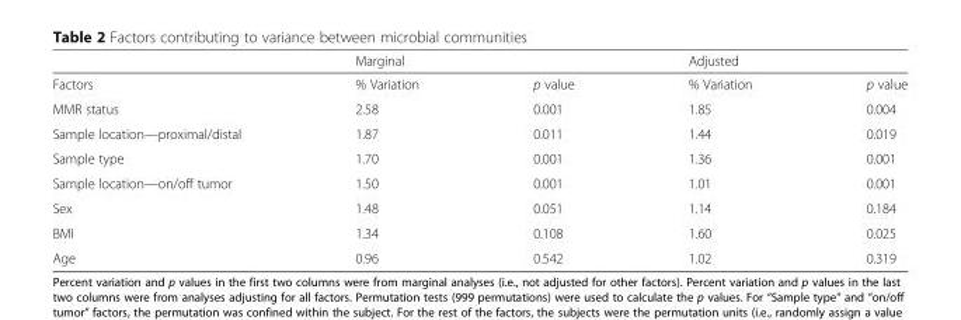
<table><thead><tr><td rowspan="2">Factors</td><td colspan="2">Marginal</td><td colspan="2">Adjusted</td></tr><tr><td>% Variation</td><td>p value</td><td>% Variation</td><td>p value</td></tr></thead><tbody><tr><td>MMR status</td><td>2.58</td><td>0.001</td><td>1.85</td><td>0.004</td></tr><tr><td>Sample location—proximal/distal</td><td>1.87</td><td>0.011</td><td>1.44</td><td>0.019</td></tr><tr><td>Sample type</td><td>1.70</td><td>0.001</td><td>1.36</td><td>0.001</td></tr><tr><td>Sample location—on/off tumor</td><td>1.50</td><td>0.001</td><td>1.01</td><td>0.001</td></tr><tr><td>Sex</td><td>1.48</td><td>0.051</td><td>1.14</td><td>0.184</td></tr><tr><td>BMI</td><td>1.34</td><td>0.108</td><td>1.60</td><td>0.025</td></tr><tr><td>Age</td><td>0.96</td><td>0.542</td><td>1.02</td><td>0.319</td></tr></tbody></table>